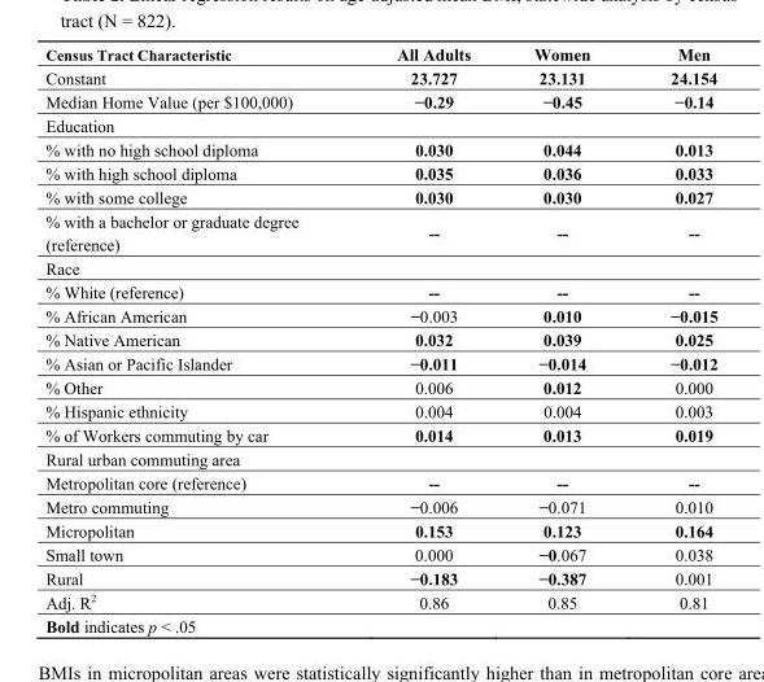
<table><thead><tr><td>Census Tract Characteristic</td><td>All Adults</td><td>Women</td><td>Men</td></tr></thead><tbody><tr><td>Constant</td><td>23.727</td><td>23.131</td><td>24.154</td></tr><tr><td>Median Home Value (per $100,000)</td><td>−0.29</td><td>−0.45</td><td>−0.14</td></tr><tr><td colspan="4">Education</td></tr><tr><td>% with no high school diploma</td><td>0.030</td><td>0.044</td><td>0.013</td></tr><tr><td>% with high school diploma</td><td>0.035</td><td>0.036</td><td>0.033</td></tr><tr><td>% with some college</td><td>0.030</td><td>0.030</td><td>0.027</td></tr><tr><td>% with a bachelor or graduate degree (reference)</td><td>--</td><td>--</td><td>--</td></tr><tr><td colspan="4">Race</td></tr><tr><td>% White (reference)</td><td>--</td><td>--</td><td>--</td></tr><tr><td>% African American</td><td>−0.003</td><td>0.010</td><td>−0.015</td></tr><tr><td>% Native American</td><td>0.032</td><td>0.039</td><td>0.025</td></tr><tr><td>% Asian or Pacific Islander</td><td>−0.011</td><td>−0.014</td><td>−0.012</td></tr><tr><td>% Other</td><td>0.006</td><td>0.012</td><td>0.000</td></tr><tr><td>% Hispanic ethnicity</td><td>0.004</td><td>0.004</td><td>0.003</td></tr><tr><td>% of Workers commuting by car</td><td>0.014</td><td>0.013</td><td>0.019</td></tr><tr><td colspan="4">Rural urban commuting area</td></tr><tr><td>Metropolitan core (reference)</td><td>--</td><td>--</td><td>--</td></tr><tr><td>Metro commuting</td><td>−0.006</td><td>−0.071</td><td>0.010</td></tr><tr><td>Micropolitan</td><td>0.153</td><td>0.123</td><td>0.164</td></tr><tr><td>Small town</td><td>0.000</td><td>−0.067</td><td>0.038</td></tr><tr><td>Rural</td><td>−0.183</td><td>−0.387</td><td>0.001</td></tr><tr><td>Adj. R<sup>2</sup></td><td>0.86</td><td>0.85</td><td>0.81</td></tr><tr><td>Bold indicates p &lt; .05</td><td></td><td></td><td></td></tr></tbody></table>